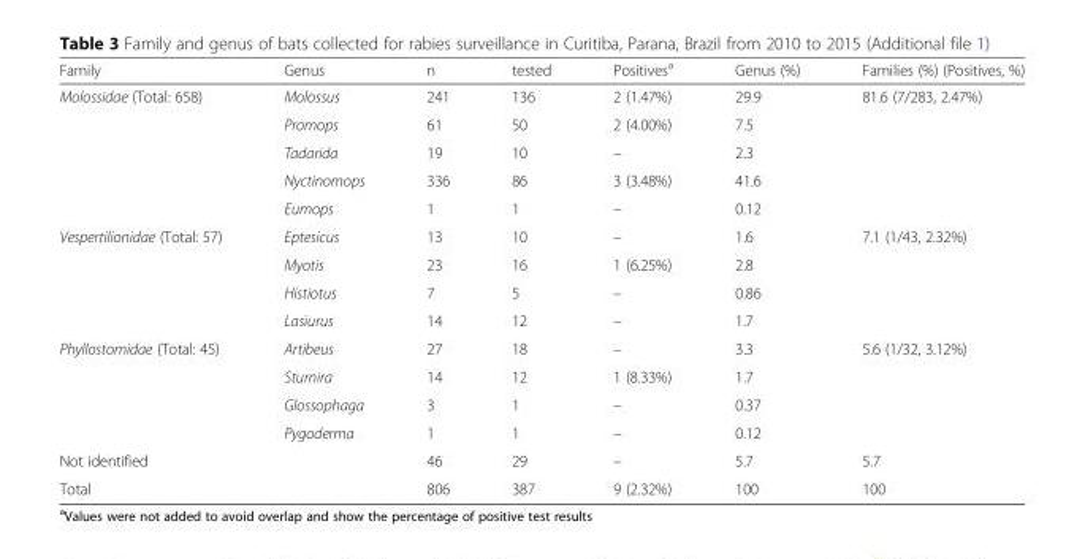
<table><thead><tr><td>Family</td><td>Genus</td><td>n</td><td>tested</td><td>Positives<sup>a</sup></td><td>Genus (%)</td><td>Families (%) (Positives, %)</td></tr></thead><tbody><tr><td rowspan="5">Molossidae (Total: 658)</td><td>Molossus</td><td>241</td><td>136</td><td>2 (1.47%)</td><td>29.9</td><td rowspan="5">81.6 (7/283, 2.47%)</td></tr><tr><td>Promops</td><td>61</td><td>50</td><td>2 (4.00%)</td><td>7.5</td></tr><tr><td>Tadarida</td><td>19</td><td>10</td><td>–</td><td>2.3</td></tr><tr><td>Nyctinomops</td><td>336</td><td>86</td><td>3 (3.48%)</td><td>41.6</td></tr><tr><td>Eumops</td><td>1</td><td>1</td><td>–</td><td>0.12</td></tr><tr><td rowspan="4">Vespertilionidae (Total: 57)</td><td>Eptesicus</td><td>13</td><td>10</td><td>–</td><td>1.6</td><td rowspan="4">7.1 (1/43, 2.32%)</td></tr><tr><td>Myotis</td><td>23</td><td>16</td><td>1 (6.25%)</td><td>2.8</td></tr><tr><td>Histiotus</td><td>7</td><td>5</td><td>–</td><td>0.86</td></tr><tr><td>Lasiurus</td><td>14</td><td>12</td><td>–</td><td>1.7</td></tr><tr><td rowspan="4">Phyllostomidae (Total: 45)</td><td>Artibeus</td><td>27</td><td>18</td><td>–</td><td>3.3</td><td rowspan="4">5.6 (1/32, 3.12%)</td></tr><tr><td>Sturnira</td><td>14</td><td>12</td><td>1 (8.33%)</td><td>1.7</td></tr><tr><td>Glossophaga</td><td>3</td><td>1</td><td>–</td><td>0.37</td></tr><tr><td>Pygoderma</td><td>1</td><td>1</td><td>–</td><td>0.12</td></tr><tr><td>Not identified</td><td></td><td>46</td><td>29</td><td>–</td><td>5.7</td><td>5.7</td></tr><tr><td>Total</td><td></td><td>806</td><td>387</td><td>9 (2.32%)</td><td>100</td><td>100</td></tr></tbody></table>